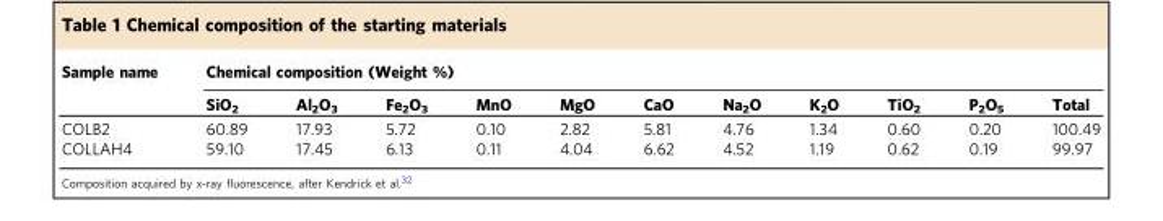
<table><thead><tr><td rowspan="2">Sample name</td><td colspan="11">Chemical composition (Weight %)</td></tr><tr><td>SiO<sub>2</sub></td><td>Al<sub>2</sub>O<sub>3</sub></td><td>Fe<sub>2</sub>O<sub>3</sub></td><td>MnO</td><td>MgO</td><td>CaO</td><td>Na<sub>2</sub>O</td><td>K<sub>2</sub>O</td><td>TiO<sub>2</sub></td><td>P<sub>2</sub>O<sub>5</sub></td><td>Total</td></tr></thead><tbody><tr><td>COLB2</td><td>60.89</td><td>17.93</td><td>5.72</td><td>0.10</td><td>2.82</td><td>5.81</td><td>4.76</td><td>1.34</td><td>0.60</td><td>0.20</td><td>100.49</td></tr><tr><td>COLLAH4</td><td>59.10</td><td>17.45</td><td>6.13</td><td>0.11</td><td>4.04</td><td>6.62</td><td>4.52</td><td>1.19</td><td>0.62</td><td>0.19</td><td>99.97</td></tr></tbody></table>